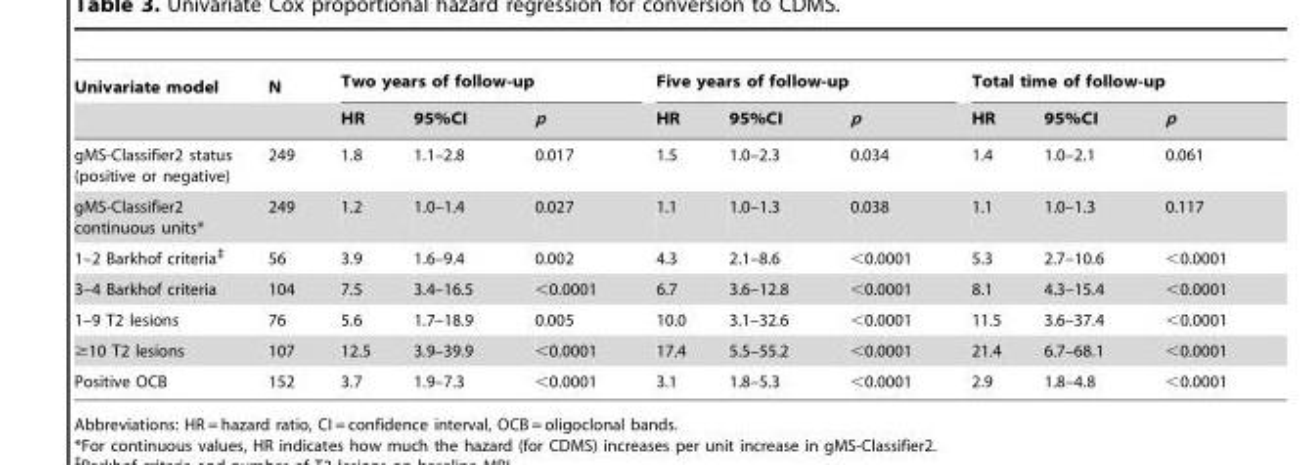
<table><thead><tr><td rowspan="2">Univariate model</td><td rowspan="2">N</td><td colspan="3">Two years of follow-up</td><td colspan="3">Five years of follow-up</td><td colspan="3">Total time of follow-up</td></tr><tr><td>HR</td><td>95%CI</td><td>p</td><td>HR</td><td>95%CI</td><td>p</td><td>HR</td><td>95%CI</td><td>p</td></tr></thead><tbody><tr><td>gMS-Classifier2 status (positive or negative)</td><td>249</td><td>1.8</td><td>1.1–2.8</td><td>0.017</td><td>1.5</td><td>1.0–2.3</td><td>0.034</td><td>1.4</td><td>1.0–2.1</td><td>0.061</td></tr><tr><td>gMS-Classifier2 continuous units*</td><td>249</td><td>1.2</td><td>1.0–1.4</td><td>0.027</td><td>1.1</td><td>1.0–1.3</td><td>0.038</td><td>1.1</td><td>1.0–1.3</td><td>0.117</td></tr><tr><td>1–2 Barkhof criteria‡</td><td>56</td><td>3.9</td><td>1.6–9.4</td><td>0.002</td><td>4.3</td><td>2.1–8.6</td><td>&lt;0.0001</td><td>5.3</td><td>2.7–10.6</td><td>&lt;0.0001</td></tr><tr><td>3–4 Barkhof criteria</td><td>104</td><td>7.5</td><td>3.4–16.5</td><td>&lt;0.0001</td><td>6.7</td><td>3.6–12.8</td><td>&lt;0.0001</td><td>8.1</td><td>4.3–15.4</td><td>&lt;0.0001</td></tr><tr><td>1–9 T2 lesions</td><td>76</td><td>5.6</td><td>1.7–18.9</td><td>0.005</td><td>10.0</td><td>3.1–32.6</td><td>&lt;0.0001</td><td>11.5</td><td>3.6–37.4</td><td>&lt;0.0001</td></tr><tr><td>≥10 T2 lesions</td><td>107</td><td>12.5</td><td>3.9–39.9</td><td>&lt;0.0001</td><td>17.4</td><td>5.5–55.2</td><td>&lt;0.0001</td><td>21.4</td><td>6.7–68.1</td><td>&lt;0.0001</td></tr><tr><td>Positive OCB</td><td>152</td><td>3.7</td><td>1.9–7.3</td><td>&lt;0.0001</td><td>3.1</td><td>1.8–5.3</td><td>&lt;0.0001</td><td>2.9</td><td>1.8–4.8</td><td>&lt;0.0001</td></tr></tbody></table>